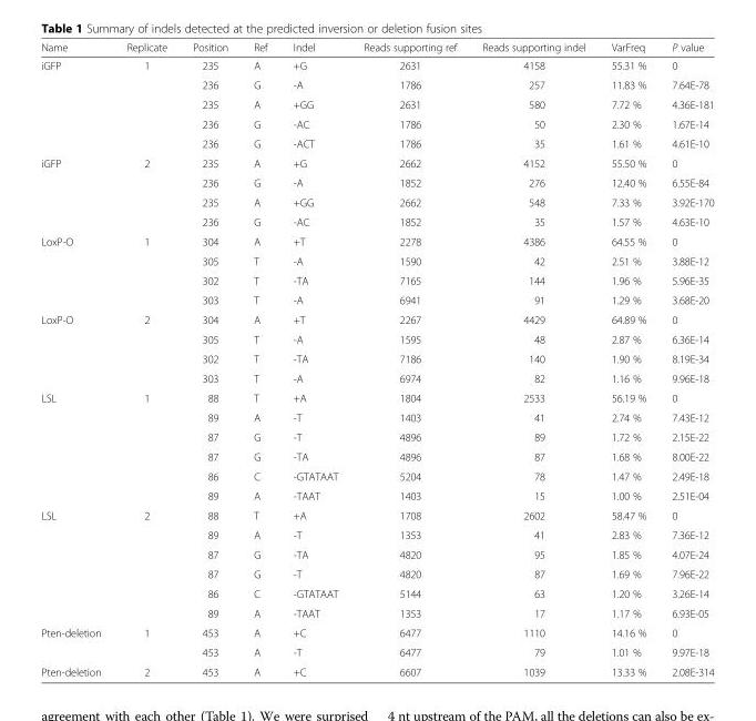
<table><thead><tr><td>Name</td><td>Replicate</td><td>Position</td><td>Ref</td><td>Indel</td><td>Reads supporting ref</td><td>Reads supporting indel</td><td>VarFreq</td><td>P value</td></tr></thead><tbody><tr><td rowspan="5">iGFP</td><td>1</td><td>235</td><td>A</td><td>+G</td><td>2631</td><td>4158</td><td>55.31 %</td><td>0</td></tr><tr><td></td><td>236</td><td>G</td><td>-A</td><td>1786</td><td>257</td><td>11.83 %</td><td>7.64E-78</td></tr><tr><td></td><td>235</td><td>A</td><td>+GG</td><td>2631</td><td>580</td><td>7.72 %</td><td>4.36E-181</td></tr><tr><td></td><td>236</td><td>G</td><td>-AC</td><td>1786</td><td>50</td><td>2.30 %</td><td>1.67E-14</td></tr><tr><td></td><td>236</td><td>G</td><td>-ACT</td><td>1786</td><td>35</td><td>1.61 %</td><td>4.61E-10</td></tr><tr><td rowspan="4">iGFP</td><td>2</td><td>235</td><td>A</td><td>+G</td><td>2662</td><td>4152</td><td>55.50 %</td><td>0</td></tr><tr><td></td><td>236</td><td>G</td><td>-A</td><td>1852</td><td>276</td><td>12.40 %</td><td>6.55E-84</td></tr><tr><td></td><td>235</td><td>A</td><td>+GG</td><td>2662</td><td>548</td><td>7.33 %</td><td>3.92E-170</td></tr><tr><td></td><td>236</td><td>G</td><td>-AC</td><td>1852</td><td>35</td><td>1.57 %</td><td>4.63E-10</td></tr><tr><td rowspan="4">LoxP-O</td><td>1</td><td>304</td><td>A</td><td>+T</td><td>2278</td><td>4386</td><td>64.55 %</td><td>0</td></tr><tr><td></td><td>305</td><td>T</td><td>-A</td><td>1590</td><td>42</td><td>2.51 %</td><td>3.88E-12</td></tr><tr><td></td><td>302</td><td>T</td><td>-TA</td><td>7165</td><td>144</td><td>1.96 %</td><td>5.96E-35</td></tr><tr><td></td><td>303</td><td>T</td><td>-A</td><td>6941</td><td>91</td><td>1.29 %</td><td>3.68E-20</td></tr><tr><td rowspan="4">LoxP-O</td><td>2</td><td>304</td><td>A</td><td>+T</td><td>2267</td><td>4429</td><td>64.89 %</td><td>0</td></tr><tr><td></td><td>305</td><td>T</td><td>-A</td><td>1595</td><td>48</td><td>2.87 %</td><td>6.36E-14</td></tr><tr><td></td><td>302</td><td>T</td><td>-TA</td><td>7186</td><td>140</td><td>1.90 %</td><td>8.19E-34</td></tr><tr><td></td><td>303</td><td>T</td><td>-A</td><td>6974</td><td>82</td><td>1.16 %</td><td>9.96E-18</td></tr><tr><td rowspan="6">LSL</td><td>1</td><td>88</td><td>T</td><td>+A</td><td>1804</td><td>2533</td><td>56.19 %</td><td>0</td></tr><tr><td></td><td>89</td><td>A</td><td>-T</td><td>1403</td><td>41</td><td>2.74 %</td><td>7.43E-12</td></tr><tr><td></td><td>87</td><td>G</td><td>-T</td><td>4896</td><td>89</td><td>1.72 %</td><td>2.15E-22</td></tr><tr><td></td><td>87</td><td>G</td><td>-TA</td><td>4896</td><td>87</td><td>1.68 %</td><td>8.00E-22</td></tr><tr><td></td><td>86</td><td>C</td><td>-GTATAAT</td><td>5204</td><td>78</td><td>1.47 %</td><td>2.49E-18</td></tr><tr><td></td><td>89</td><td>A</td><td>-TAAT</td><td>1403</td><td>15</td><td>1.00 %</td><td>2.51E-04</td></tr><tr><td rowspan="6">LSL</td><td>2</td><td>88</td><td>T</td><td>+A</td><td>1708</td><td>2602</td><td>58.47 %</td><td>0</td></tr><tr><td></td><td>89</td><td>A</td><td>-T</td><td>1353</td><td>41</td><td>2.83 %</td><td>7.36E-12</td></tr><tr><td></td><td>87</td><td>G</td><td>-TA</td><td>4820</td><td>95</td><td>1.85 %</td><td>4.07E-24</td></tr><tr><td></td><td>87</td><td>G</td><td>-T</td><td>4820</td><td>87</td><td>1.69 %</td><td>7.96E-22</td></tr><tr><td></td><td>86</td><td>C</td><td>-GTATAAT</td><td>5144</td><td>63</td><td>1.20 %</td><td>3.26E-14</td></tr><tr><td></td><td>89</td><td>A</td><td>-TAAT</td><td>1353</td><td>17</td><td>1.17 %</td><td>6.93E-05</td></tr><tr><td rowspan="2">Pten-deletion</td><td>1</td><td>453</td><td>A</td><td>+C</td><td>6477</td><td>1110</td><td>14.16 %</td><td>0</td></tr><tr><td></td><td>453</td><td>A</td><td>-T</td><td>6477</td><td>79</td><td>1.01 %</td><td>9.97E-18</td></tr><tr><td>Pten-deletion</td><td>2</td><td>453</td><td>A</td><td>+C</td><td>6607</td><td>1039</td><td>13.33 %</td><td>2.08E-314</td></tr></tbody></table>